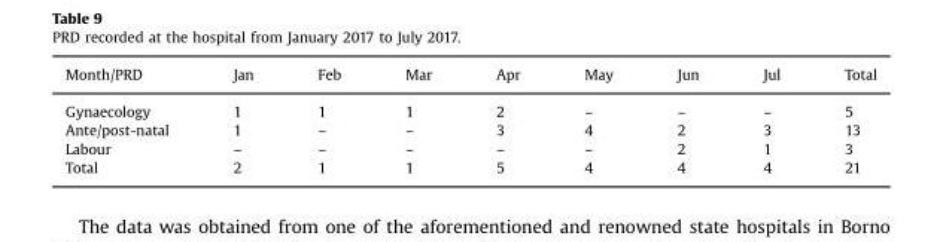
<table><thead><tr><td>Month/PRD</td><td>Jan</td><td>Feb</td><td>Mar</td><td>Apr</td><td>May</td><td>Jun</td><td>Jul</td><td>Total</td></tr></thead><tbody><tr><td>Gynaecology</td><td>1</td><td>1</td><td>1</td><td>2</td><td>–</td><td>–</td><td>–</td><td>5</td></tr><tr><td>Ante/post-natal</td><td>1</td><td>–</td><td>–</td><td>3</td><td>4</td><td>2</td><td>3</td><td>13</td></tr><tr><td>Labour</td><td>–</td><td>–</td><td>–</td><td>–</td><td>–</td><td>2</td><td>1</td><td>3</td></tr><tr><td>Total</td><td>2</td><td>1</td><td>1</td><td>5</td><td>4</td><td>4</td><td>4</td><td>21</td></tr></tbody></table>